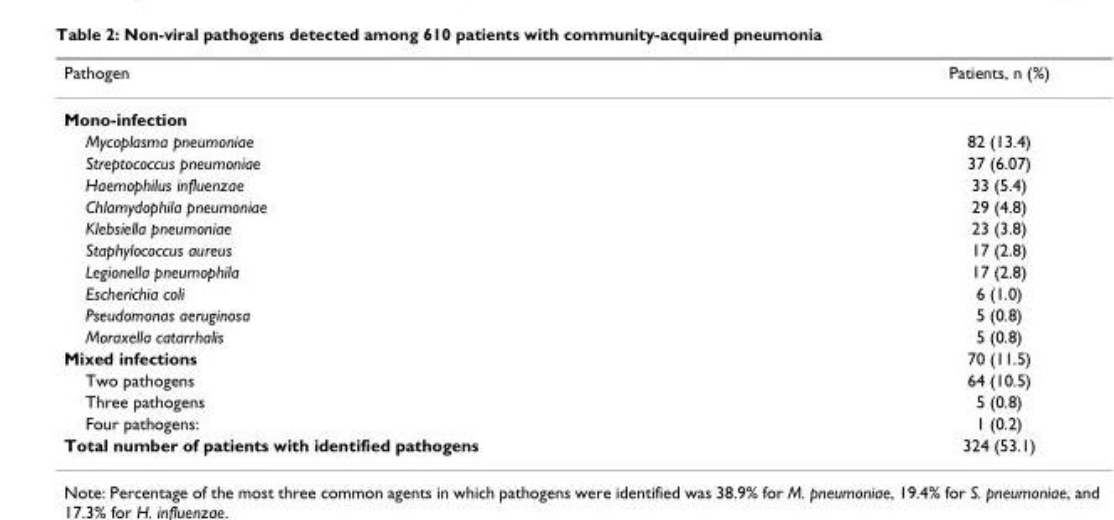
<table><thead><tr><td>Pathogen</td><td>Patients, n (%)</td></tr></thead><tbody><tr><td colspan="2">Mono-infection</td></tr><tr><td>Mycoplasma pneumoniae</td><td>82 (13.4)</td></tr><tr><td>Streptococcus pneumoniae</td><td>37 (6.07)</td></tr><tr><td>Haemophilus influenzae</td><td>33 (5.4)</td></tr><tr><td>Chlamydophila pneumoniae</td><td>29 (4.8)</td></tr><tr><td>Klebsiella pneumoniae</td><td>23 (3.8)</td></tr><tr><td>Staphylococcus aureus</td><td>17 (2.8)</td></tr><tr><td>Legionella pneumophila</td><td>17 (2.8)</td></tr><tr><td>Escherichia coli</td><td>6 (1.0)</td></tr><tr><td>Pseudomonas aeruginosa</td><td>5 (0.8)</td></tr><tr><td>Moraxella catarrhalis</td><td>5 (0.8)</td></tr><tr><td>Mixed infections</td><td>70 (11.5)</td></tr><tr><td>Two pathogens</td><td>64 (10.5)</td></tr><tr><td>Three pathogens</td><td>5 (0.8)</td></tr><tr><td>Four pathogens:</td><td>1 (0.2)</td></tr><tr><td>Total number of patients with identified pathogens</td><td>324 (53.1)</td></tr></tbody></table>